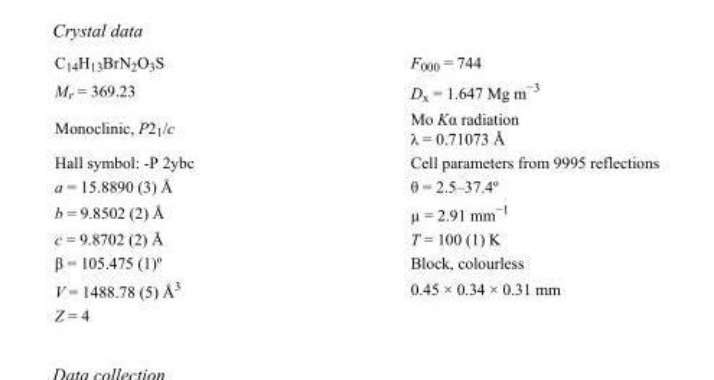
<table><tbody><tr><td>C<sub>14</sub>H<sub>13</sub>BrN<sub>2</sub>O<sub>3</sub>S</td><td>F<sub>000</sub> = 744</td></tr><tr><td>M<sub>r</sub> = 369.23</td><td>D<sub>x</sub> = 1.647 Mg m<sup>−3</sup></td></tr><tr><td>Monoclinic, P2<sub>1</sub>/c</td><td>Mo Kα radiation λ = 0.71073 Å</td></tr><tr><td>Hall symbol: -P 2ybc</td><td>Cell parameters from 9995 reflections</td></tr><tr><td>a = 15.8890 (3) Å</td><td>θ = 2.5–37.4º</td></tr><tr><td>b = 9.8502 (2) Å</td><td>µ = 2.91 mm<sup>−1</sup></td></tr><tr><td>c = 9.8702 (2) Å</td><td>T = 100 (1) K</td></tr><tr><td>β = 105.475 (1)º</td><td>Block, colourless</td></tr><tr><td>V = 1488.78 (5) Å<sup>3</sup></td><td>0.45 × 0.34 × 0.31 mm</td></tr><tr><td>Z = 4</td><td></td></tr></tbody></table>